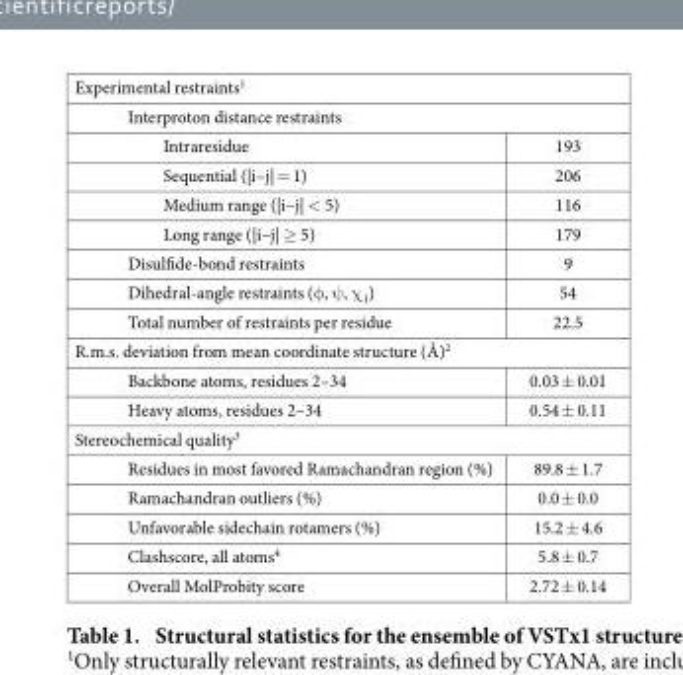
<table><tbody><tr><td colspan="2">Experimental restraints<sup>1</sup></td></tr><tr><td colspan="2">Interproton distance restraints</td></tr><tr><td>Intraresidue</td><td>193</td></tr><tr><td>Sequential (|i–j| = 1)</td><td>206</td></tr><tr><td>Medium range (|i–j| &lt; 5)</td><td>116</td></tr><tr><td>Long range (|i–j| ≥ 5)</td><td>179</td></tr><tr><td>Disulfide-bond restraints</td><td>9</td></tr><tr><td>Dihedral-angle restraints (φ , ψ , χ <sub>1</sub>)</td><td>54</td></tr><tr><td>Total number of restraints per residue</td><td>22.5</td></tr><tr><td colspan="2">R.m.s. deviation from mean coordinate structure (Å)<sup>2</sup></td></tr><tr><td>Backbone atoms, residues 2–34</td><td>0.03 ± 0.01</td></tr><tr><td>Heavy atoms, residues 2–34</td><td>0.54 ± 0.11</td></tr><tr><td colspan="2">Stereochemical quality<sup>3</sup></td></tr><tr><td>Residues in most favored Ramachandran region (%)</td><td>89.8 ± 1.7</td></tr><tr><td>Ramachandran outliers (%)</td><td>0.0 ± 0.0</td></tr><tr><td>Unfavorable sidechain rotamers (%)</td><td>15.2 ± 4.6</td></tr><tr><td>Clashscore, all atoms<sup>4</sup></td><td>5.8 ± 0.7</td></tr><tr><td>Overall MolProbity score</td><td>2.72 ± 0.14</td></tr></tbody></table>